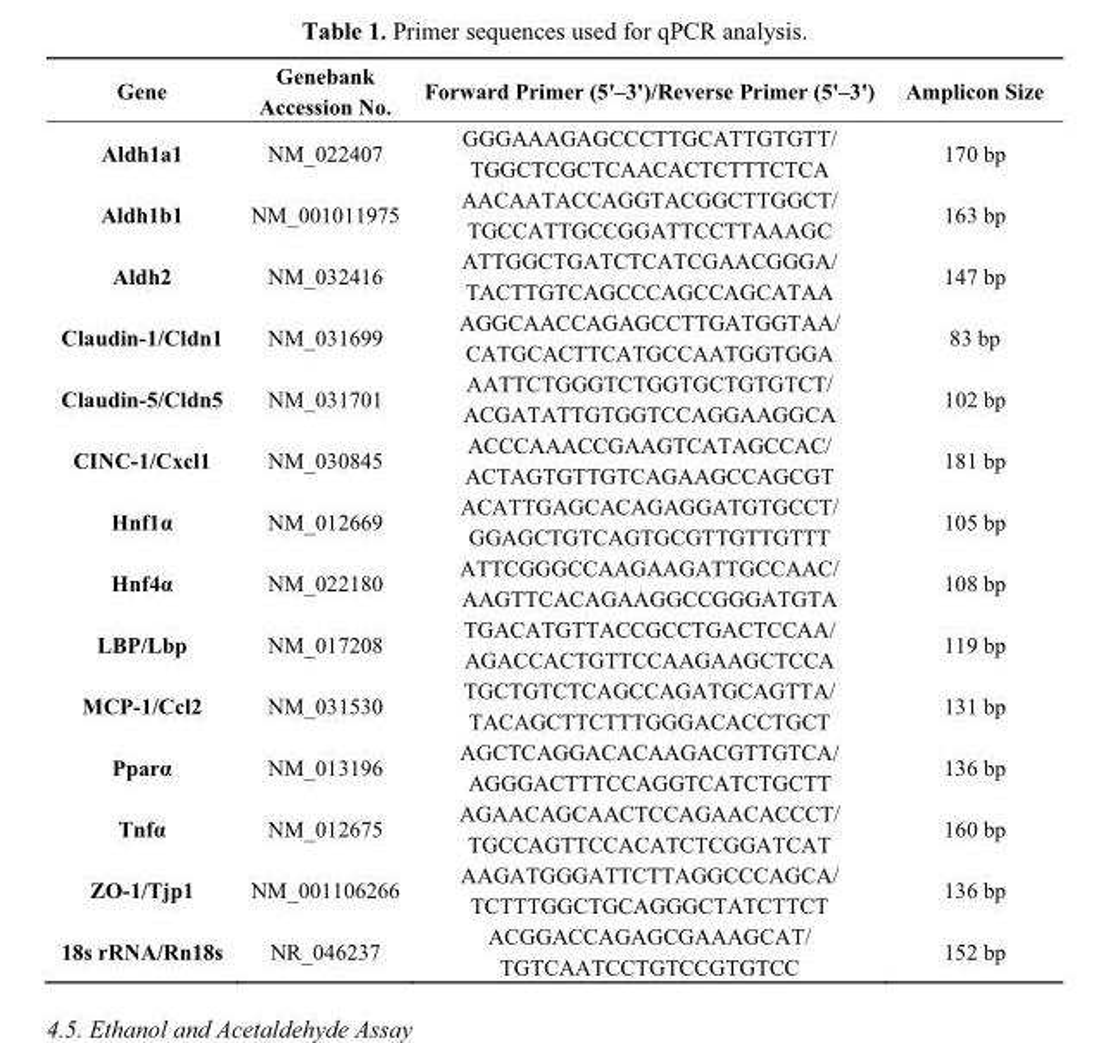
<table><thead><tr><td>Gene</td><td>Genebank Accession No.</td><td>Forward Primer (5&#x27;–3&#x27;)/Reverse Primer (5&#x27;–3&#x27;)</td><td>Amplicon Size</td></tr></thead><tbody><tr><td rowspan="2">Aldh1a1</td><td rowspan="2">NM_022407</td><td>GGGAAAGAGCCCTTGCATTGTGTT/</td><td rowspan="2">170 bp</td></tr><tr><td>TGGCTCGCTCAACACTCTTTCTCA</td></tr><tr><td rowspan="2">Aldh1b1</td><td rowspan="2">NM_001011975</td><td>AACAATACCAGGTACGGCTTGGCT/</td><td rowspan="2">163 bp</td></tr><tr><td>TGCCATTGCCGGATTCCTTAAAGC</td></tr><tr><td rowspan="2">Aldh2</td><td rowspan="2">NM_032416</td><td>ATTGGCTGATCTCATCGAACGGGA/</td><td rowspan="2">147 bp</td></tr><tr><td>TACTTGTCAGCCCAGCCAGCATAA</td></tr><tr><td rowspan="2">Claudin-1/Cldn1</td><td rowspan="2">NM_031699</td><td>AGGCAACCAGAGCCTTGATGGTAA/</td><td rowspan="2">83 bp</td></tr><tr><td>CATGCACTTCATGCCAATGGTGGA</td></tr><tr><td rowspan="2">Claudin-5/Cldn5</td><td rowspan="2">NM_031701</td><td>AATTCTGGGTCTGGTGCTGTGTCT/</td><td rowspan="2">102 bp</td></tr><tr><td>ACGATATTGTGGTCCAGGAAGGCA</td></tr><tr><td rowspan="2">CINC-1/Cxcl1</td><td rowspan="2">NM_030845</td><td>ACCCAAACCGAAGTCATAGCCAC/</td><td rowspan="2">181 bp</td></tr><tr><td>ACTAGTGTTGTCAGAAGCCAGCGT</td></tr><tr><td rowspan="2">Hnf1α</td><td rowspan="2">NM_012669</td><td>ACATTGAGCACAGAGGATGTGCCT/</td><td rowspan="2">105 bp</td></tr><tr><td>GGAGCTGTCAGTGCGTTGTTGTTT</td></tr><tr><td rowspan="2">Hnf4α</td><td rowspan="2">NM_022180</td><td>ATTCGGGCCAAGAAGATTGCCAAC/</td><td rowspan="2">108 bp</td></tr><tr><td>AAGTTCACAGAAGGCCGGGATGTA</td></tr><tr><td rowspan="2">LBP/Lbp</td><td rowspan="2">NM_017208</td><td>TGACATGTTACCGCCTGACTCCAA/</td><td rowspan="2">119 bp</td></tr><tr><td>AGACCACTGTTCCAAGAAGCTCCA</td></tr><tr><td rowspan="2">MCP-1/Ccl2</td><td rowspan="2">NM_031530</td><td>TGCTGTCTCAGCCAGATGCAGTTA/</td><td rowspan="2">131 bp</td></tr><tr><td>TACAGCTTCTTTGGGACACCTGCT</td></tr><tr><td rowspan="2">Pparα</td><td rowspan="2">NM_013196</td><td>AGCTCAGGACACAAGACGTTGTCA/</td><td rowspan="2">136 bp</td></tr><tr><td>AGGGACTTTCCAGGTCATCTGCTT</td></tr><tr><td rowspan="2">Tnfα</td><td rowspan="2">NM_012675</td><td>AGAACAGCAACTCCAGAACACCCT/</td><td rowspan="2">160 bp</td></tr><tr><td>TGCCAGTTCCACATCTCGGATCAT</td></tr><tr><td rowspan="2">ZO-1/Tjp1</td><td rowspan="2">NM_001106266</td><td>AAGATGGGATTCTTAGGCCCAGCA/</td><td rowspan="2">136 bp</td></tr><tr><td>TCTTTGGCTGCAGGGCTATCTTCT</td></tr><tr><td rowspan="2">18s rRNA/Rn18s</td><td rowspan="2">NR_046237</td><td>ACGGACCAGAGCGAAAGCAT/</td><td rowspan="2">152 bp</td></tr><tr><td>TGTCAATCCTGTCCGTGTCC</td></tr></tbody></table>